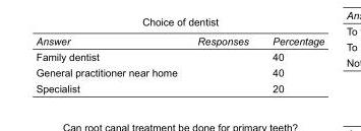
<table><tbody><tr><td>Answer</td><td>Responses</td><td>Percentage</td></tr><tr><td>Family dentist</td><td></td><td>40</td></tr><tr><td>General practitioner near home</td><td></td><td>40</td></tr><tr><td>Specialist</td><td></td><td>20</td></tr></tbody></table>